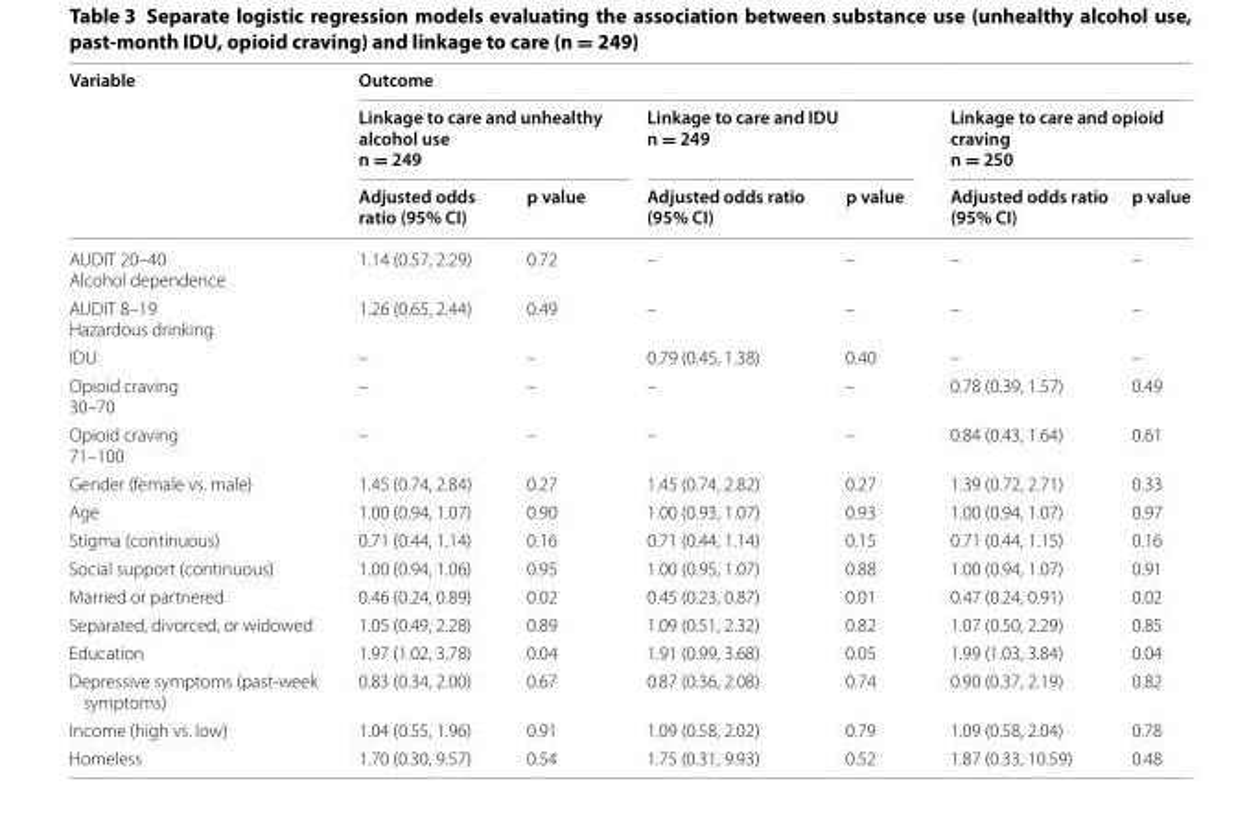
<table><thead><tr><td rowspan="3">Variable</td><td colspan="6">Outcome</td></tr><tr><td colspan="2">Linkage to care and unhealthy alcohol use n = 249</td><td colspan="2">Linkage to care and IDU n = 249</td><td colspan="2">Linkage to care and opioid craving n = 250</td></tr><tr><td>Adjusted odds ratio (95% CI)</td><td>p value</td><td>Adjusted odds ratio (95% CI)</td><td>p value</td><td>Adjusted odds ratio (95% CI)</td><td>p value</td></tr></thead><tbody><tr><td>AUDIT 20–40 Alcohol dependence</td><td>1.14 (0.57, 2.29)</td><td>0.72</td><td>–</td><td>–</td><td>–</td><td>–</td></tr><tr><td>AUDIT 8–19 Hazardous drinking</td><td>1.26 (0.65, 2.44)</td><td>0.49</td><td>–</td><td>–</td><td>–</td><td>–</td></tr><tr><td>IDU</td><td>–</td><td>–</td><td>0.79 (0.45, 1.38)</td><td>0.40</td><td>–</td><td>–</td></tr><tr><td>Opioid craving 30–70</td><td>–</td><td>–</td><td>–</td><td>–</td><td>0.78 (0.39, 1.57)</td><td>0.49</td></tr><tr><td>Opioid craving 71–100</td><td>–</td><td>–</td><td>–</td><td>–</td><td>0.84 (0.43, 1.64)</td><td>0.61</td></tr><tr><td>Gender (female vs. male)</td><td>1.45 (0.74, 2.84)</td><td>0.27</td><td>1.45 (0.74, 2.82)</td><td>0.27</td><td>1.39 (0.72, 2.71)</td><td>0.33</td></tr><tr><td>Age</td><td>1.00 (0.94, 1.07)</td><td>0.90</td><td>1.00 (0.93, 1.07)</td><td>0.93</td><td>1.00 (0.94, 1.07)</td><td>0.97</td></tr><tr><td>Stigma (continuous)</td><td>0.71 (0.44, 1.14)</td><td>0.16</td><td>0.71 (0.44, 1.14)</td><td>0.15</td><td>0.71 (0.44, 1.15)</td><td>0.16</td></tr><tr><td>Social support (continuous)</td><td>1.00 (0.94, 1.06)</td><td>0.95</td><td>1.00 (0.95, 1.07)</td><td>0.88</td><td>1.00 (0.94, 1.07)</td><td>0.91</td></tr><tr><td>Married or partnered</td><td>0.46 (0.24, 0.89)</td><td>0.02</td><td>0.45 (0.23, 0.87)</td><td>0.01</td><td>0.47 (0.24, 0.91)</td><td>0.02</td></tr><tr><td>Separated, divorced, or widowed</td><td>1.05 (0.49, 2.28)</td><td>0.89</td><td>1.09 (0.51, 2.32)</td><td>0.82</td><td>1.07 (0.50, 2.29)</td><td>0.85</td></tr><tr><td>Education</td><td>1.97 (1.02, 3.78)</td><td>0.04</td><td>1.91 (0.99, 3.68)</td><td>0.05</td><td>1.99 (1.03, 3.84)</td><td>0.04</td></tr><tr><td>Depressive symptoms (past-week symptoms)</td><td>0.83 (0.34, 2.00)</td><td>0.67</td><td>0.87 (0.36, 2.08)</td><td>0.74</td><td>0.90 (0.37, 2.19)</td><td>0.82</td></tr><tr><td>Income (high vs. low)</td><td>1.04 (0.55, 1.96)</td><td>0.91</td><td>1.09 (0.58, 2.02)</td><td>0.79</td><td>1.09 (0.58, 2.04)</td><td>0.78</td></tr><tr><td>Homeless</td><td>1.70 (0.30, 9.57)</td><td>0.54</td><td>1.75 (0.31, 9.93)</td><td>0.52</td><td>1.87 (0.33, 10.59)</td><td>0.48</td></tr></tbody></table>